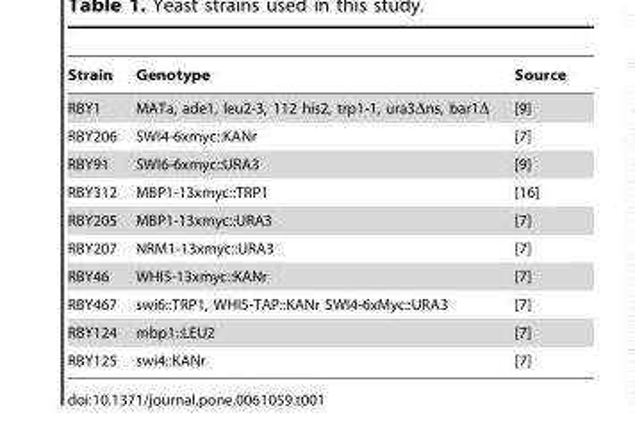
<table><thead><tr><td>Strain</td><td>Genotype</td><td>Source</td></tr></thead><tbody><tr><td>RBY1</td><td>MATa, ade1, leu2-3, 112 his2, trp1-1, ura3Δns, bar1Δ</td><td>[9]</td></tr><tr><td>RBY206</td><td>SWI4-6xmyc::KANr</td><td>[7]</td></tr><tr><td>RBY91</td><td>SWI6-6xmyc::URA3</td><td>[9]</td></tr><tr><td>RBY312</td><td>MBP1-13xmyc::TRP1</td><td>[16]</td></tr><tr><td>RBY205</td><td>MBP1-13xmyc::URA3</td><td>[7]</td></tr><tr><td>RBY207</td><td>NRM1-13xmyc::URA3</td><td>[7]</td></tr><tr><td>RBY46</td><td>WHI5-13xmyc::KANr</td><td>[7]</td></tr><tr><td>RBY467</td><td>swi6::TRP1, WHI5-TAP::KANr SWI4-6xMyc::URA3</td><td>[7]</td></tr><tr><td>RBY124</td><td>mbp1::LEU2</td><td>[7]</td></tr><tr><td>RBY125</td><td>swi4::KANr</td><td>[7]</td></tr></tbody></table>